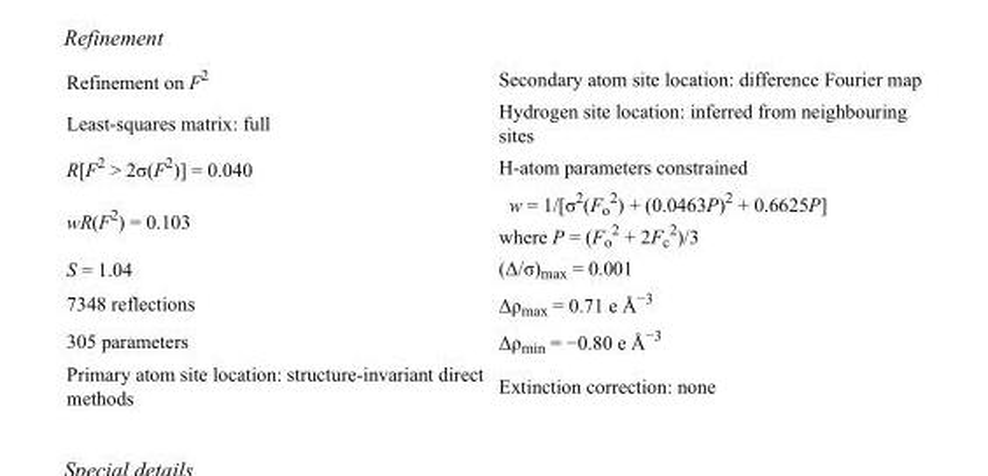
<table><tbody><tr><td>Refinement on F<sup>2</sup></td><td>Secondary atom site location: difference Fourier map</td></tr><tr><td>Least-squares matrix: full</td><td>Hydrogen site location: inferred from neighbouring sites</td></tr><tr><td>R[F<sup>2</sup> &gt; 2σ(F<sup>2</sup>)] = 0.040</td><td>H-atom parameters constrained</td></tr><tr><td>wR(F<sup>2</sup>) = 0.103</td><td>w = 1/[σ<sup>2</sup>(F<sub>o</sub> <sup>2</sup>) + (0.0463P)<sup>2</sup> + 0.6625P] where P = (F<sub>o</sub> <sup>2</sup> + 2F<sub>c</sub> <sup>2</sup>)/3</td></tr><tr><td>S = 1.04</td><td>(Δ/σ)<sub>max</sub> = 0.001</td></tr><tr><td>7348 reflections</td><td>Δρ<sub>max</sub> = 0.71 e Å<sup>−3</sup></td></tr><tr><td>305 parameters</td><td>Δρ<sub>min</sub> = −0.80 e Å<sup>−3</sup></td></tr><tr><td>Primary atom site location: structure-invariant direct methods</td><td>Extinction correction: none</td></tr></tbody></table>